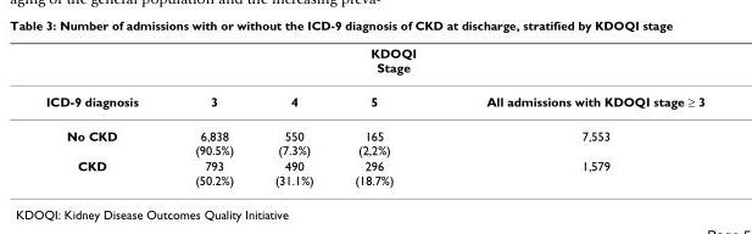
<table><thead><tr><td colspan="5">KDOQI Stage</td></tr><tr><td>ICD-9 diagnosis</td><td>3</td><td>4</td><td>5</td><td>All admissions with KDOQI stage ≥ 3</td></tr></thead><tbody><tr><td>No CKD</td><td>6,838 (90.5%)</td><td>550 (7.3%)</td><td>165 (2,2%)</td><td>7,553</td></tr><tr><td>CKD</td><td>793 (50.2%)</td><td>490 (31.1%)</td><td>296 (18.7%)</td><td>1,579</td></tr></tbody></table>